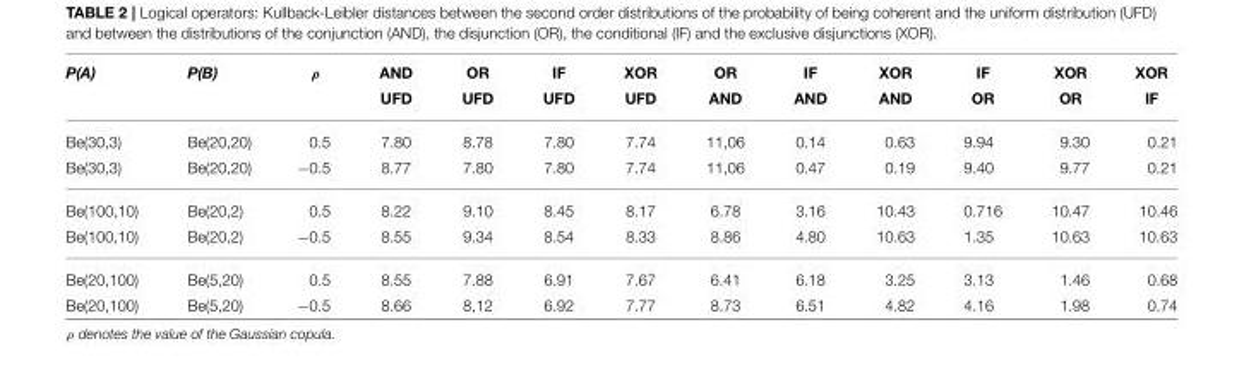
<table><thead><tr><td rowspan="2">P(A)</td><td rowspan="2">P(B)</td><td rowspan="2">ρ</td><td rowspan="2">AND UFD</td><td rowspan="2">OR UFD</td><td rowspan="2">IF UFD</td><td rowspan="2">XOR UFD</td><td rowspan="2">OR AND</td><td rowspan="2">IF AND</td><td rowspan="2">XOR AND</td><td rowspan="2">IF OR</td><td rowspan="2">XOR OR</td><td rowspan="2">XOR IF</td></tr><tr></tr></thead><tbody><tr><td>Be(30,3)</td><td>Be(20,20)</td><td>0.5</td><td>7.80</td><td>8.78</td><td>7.80</td><td>7.74</td><td>11,06</td><td>0.14</td><td>0.63</td><td>9.94</td><td>9.30</td><td>0.21</td></tr><tr><td>Be(30,3)</td><td>Be(20,20)</td><td>−0.5</td><td>8.77</td><td>7.80</td><td>7.80</td><td>7.74</td><td>11,06</td><td>0.47</td><td>0.19</td><td>9.40</td><td>9.77</td><td>0.21</td></tr><tr><td>Be(100,10)</td><td>Be(20,2)</td><td>0.5</td><td>8.22</td><td>9.10</td><td>8.45</td><td>8.17</td><td>6.78</td><td>3.16</td><td>10.43</td><td>0.716</td><td>10.47</td><td>10.46</td></tr><tr><td>Be(100,10)</td><td>Be(20,2)</td><td>−0.5</td><td>8.55</td><td>9.34</td><td>8.54</td><td>8.33</td><td>8.86</td><td>4.80</td><td>10.63</td><td>1.35</td><td>10.63</td><td>10.63</td></tr><tr><td>Be(20,100)</td><td>Be(5,20)</td><td>0.5</td><td>8.55</td><td>7.88</td><td>6.91</td><td>7.67</td><td>6.41</td><td>6.18</td><td>3.25</td><td>3.13</td><td>1.46</td><td>0.68</td></tr><tr><td>Be(20,100)</td><td>Be(5,20)</td><td>−0.5</td><td>8.66</td><td>8,12</td><td>6.92</td><td>7.77</td><td>8.73</td><td>6.51</td><td>4.82</td><td>4.16</td><td>1.98</td><td>0.74</td></tr></tbody></table>